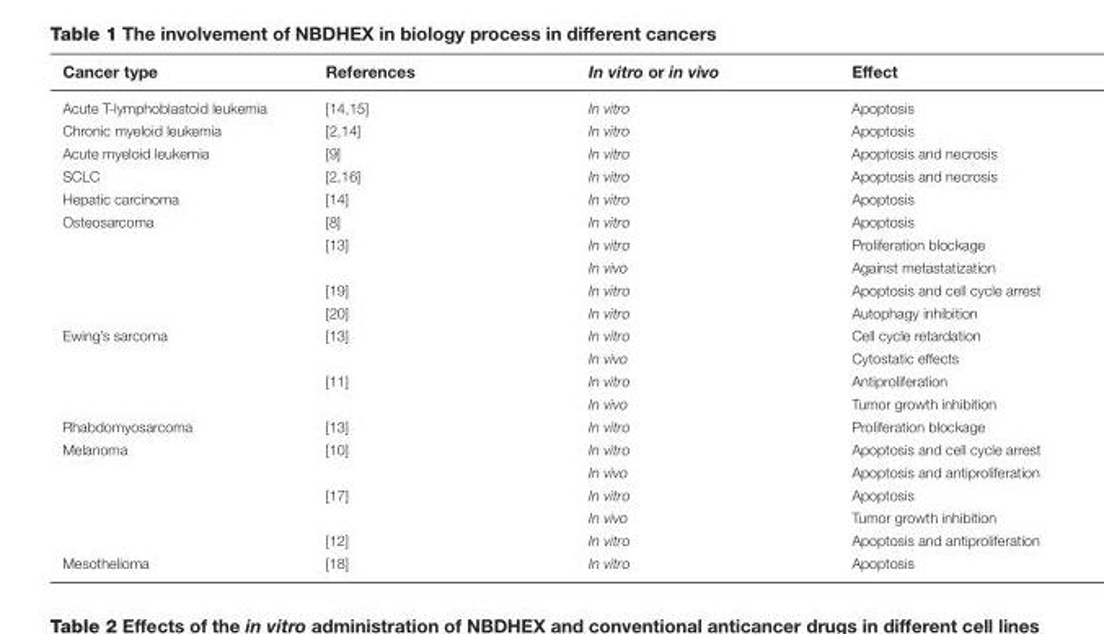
<table><thead><tr><td>Cancer type</td><td>References</td><td>In vitro or in vivo</td><td>Effect</td></tr></thead><tbody><tr><td>Acute T-lymphoblastoid leukemia</td><td>[14,15]</td><td>In vitro</td><td>Apoptosis</td></tr><tr><td>Chronic myeloid leukemia</td><td>[2,14]</td><td>In vitro</td><td>Apoptosis</td></tr><tr><td>Acute myeloid leukemia</td><td>[9]</td><td>In vitro</td><td>Apoptosis and necrosis</td></tr><tr><td>SCLC</td><td>[2,16]</td><td>In vitro</td><td>Apoptosis and necrosis</td></tr><tr><td>Hepatic carcinoma</td><td>[14]</td><td>In vitro</td><td>Apoptosis</td></tr><tr><td rowspan="5">Osteosarcoma</td><td>[8]</td><td>In vitro</td><td>Apoptosis</td></tr><tr><td>[13]</td><td>In vitro</td><td>Proliferation blockage</td></tr><tr><td></td><td>In vivo</td><td>Against metastatization</td></tr><tr><td>[19]</td><td>In vitro</td><td>Apoptosis and cell cycle arrest</td></tr><tr><td>[20]</td><td>In vitro</td><td>Autophagy inhibition</td></tr><tr><td rowspan="4">Ewing’s sarcoma</td><td>[13]</td><td>In vitro</td><td>Cell cycle retardation</td></tr><tr><td></td><td>In vivo</td><td>Cytostatic effects</td></tr><tr><td>[11]</td><td>In vitro</td><td>Antiproliferation</td></tr><tr><td></td><td>In vivo</td><td>Tumor growth inhibition</td></tr><tr><td>Rhabdomyosarcoma</td><td>[13]</td><td>In vitro</td><td>Proliferation blockage</td></tr><tr><td rowspan="5">Melanoma</td><td>[10]</td><td>In vitro</td><td>Apoptosis and cell cycle arrest</td></tr><tr><td></td><td>In vivo</td><td>Apoptosis and antiproliferation</td></tr><tr><td>[17]</td><td>In vitro</td><td>Apoptosis</td></tr><tr><td></td><td>In vivo</td><td>Tumor growth inhibition</td></tr><tr><td>[12]</td><td>In vitro</td><td>Apoptosis and antiproliferation</td></tr><tr><td>Mesothelioma</td><td>[18]</td><td>In vitro</td><td>Apoptosis</td></tr></tbody></table>